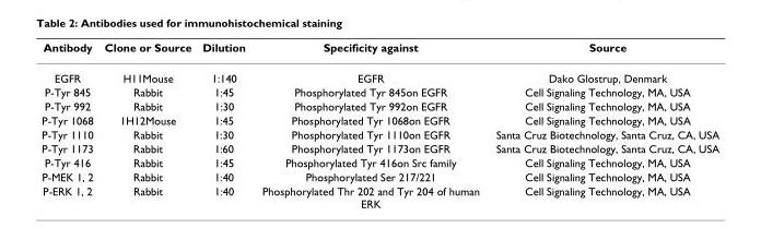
<table><thead><tr><td>Antibody</td><td>Clone or Source</td><td>Dilution</td><td>Specificity against</td><td>Source</td></tr></thead><tbody><tr><td>EGFR</td><td>H11Mouse</td><td>1:140</td><td>EGFR</td><td>Dako Glostrup, Denmark</td></tr><tr><td>P-Tyr 845</td><td>Rabbit</td><td>1:45</td><td>Phosphorylated Tyr 845on EGFR</td><td>Cell Signaling Technology, MA, USA</td></tr><tr><td>P-Tyr 992</td><td>Rabbit</td><td>1:30</td><td>Phosphorylated Tyr 992on EGFR</td><td>Cell Signaling Technology, MA, USA</td></tr><tr><td>P-Tyr 1068</td><td>1H12Mouse</td><td>1:45</td><td>Phosphorylated Tyr 1068on EGFR</td><td>Cell Signaling Technology, MA, USA</td></tr><tr><td>P-Tyr 1110</td><td>Rabbit</td><td>1:30</td><td>Phosphorylated Tyr 1110on EGFR</td><td>Santa Cruz Biotechnology, Santa Cruz, CA, USA</td></tr><tr><td>P-Tyr 1173</td><td>Rabbit</td><td>1:60</td><td>Phosphorylated Tyr 1173on EGFR</td><td>Santa Cruz Biotechnology, Santa Cruz, CA, USA</td></tr><tr><td>P-Tyr 416</td><td>Rabbit</td><td>1:45</td><td>Phosphorylated Tyr 416on Src family</td><td>Cell Signaling Technology, MA, USA</td></tr><tr><td>P-MEK 1, 2</td><td>Rabbit</td><td>1:40</td><td>Phosphorylated Ser 217/221</td><td>Cell Signaling Technology, MA, USA</td></tr><tr><td>P-ERK 1, 2</td><td>Rabbit</td><td>1:40</td><td>Phosphorylated Thr 202 and Tyr 204 of human ERK</td><td>Cell Signaling Technology, MA, USA</td></tr></tbody></table>